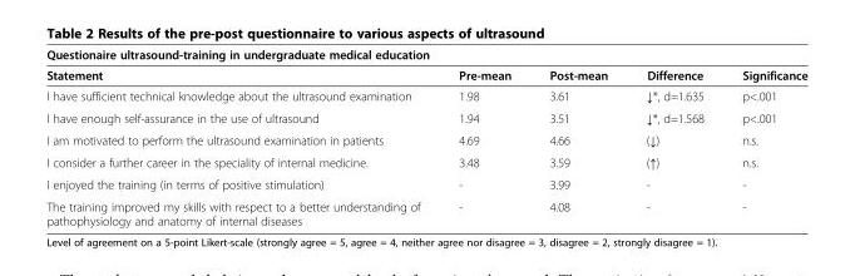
<table><thead><tr><td colspan="5">Questionaire ultrasound-training in undergraduate medical education</td></tr><tr><td>Statement</td><td>Pre-mean</td><td>Post-mean</td><td>Difference</td><td>Significance</td></tr></thead><tbody><tr><td>I have sufficient technical knowledge about the ultrasound examination</td><td>1.98</td><td>3.61</td><td>↓*, d=1.635</td><td>p&lt;.001</td></tr><tr><td>I have enough self-assurance in the use of ultrasound</td><td>1.94</td><td>3.51</td><td>↓*, d=1.568</td><td>p&lt;.001</td></tr><tr><td>I am motivated to perform the ultrasound examination in patients</td><td>4.69</td><td>4.66</td><td>(↓)</td><td>n.s.</td></tr><tr><td>I consider a further career in the speciality of internal medicine.</td><td>3.48</td><td>3.59</td><td>(↑)</td><td>n.s.</td></tr><tr><td>I enjoyed the training (in terms of positive stimulation)</td><td>-</td><td>3.99</td><td>-</td><td>-</td></tr><tr><td>The training improved my skills with respect to a better understanding of pathophysiology and anatomy of internal diseases</td><td>-</td><td>4.08</td><td>-</td><td>-</td></tr></tbody></table>